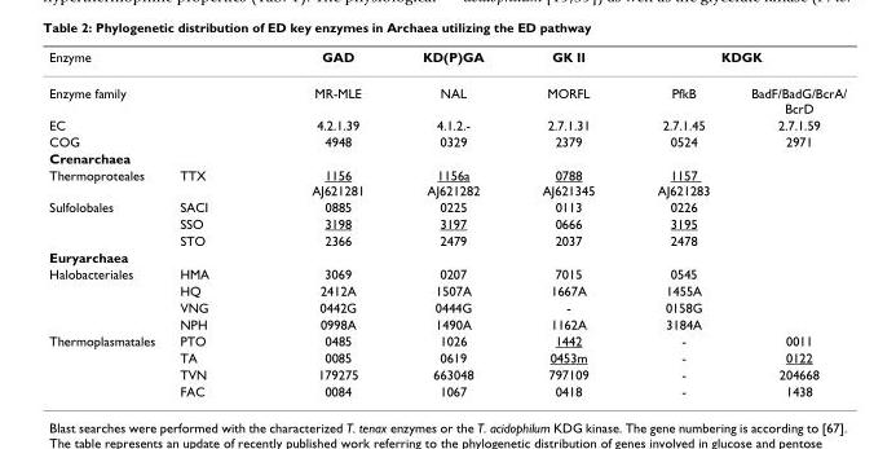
<table><thead><tr><td rowspan="2">Enzyme Enzyme family</td><td rowspan="2"></td><td rowspan="2">GAD MR-MLE</td><td rowspan="2">KD(P)GA NAL</td><td rowspan="2">GK II MORFL</td><td colspan="2">KDGK</td></tr><tr><td>PfkB</td><td>BadF/BadG/BcrA/ BcrD</td></tr></thead><tbody><tr><td>EC</td><td></td><td>4.2.1.39</td><td>4.1.2.-</td><td>2.7.1.31</td><td>2.7.1.45</td><td>2.7.1.59</td></tr><tr><td>COG</td><td></td><td>4948</td><td>0329</td><td>2379</td><td>0524</td><td>2971</td></tr><tr><td colspan="7">Crenarchaea</td></tr><tr><td>Thermoproteales</td><td>TTX</td><td>1156 AJ621281</td><td>1156a AJ621282</td><td>0788 AJ621345</td><td>1157 AJ621283</td><td></td></tr><tr><td rowspan="3">Sulfolobales</td><td>SACI</td><td>0885</td><td>0225</td><td>0113</td><td>0226</td><td></td></tr><tr><td>SSO</td><td>3198</td><td>3197</td><td>0666</td><td>3195</td><td></td></tr><tr><td>STO</td><td>2366</td><td>2479</td><td>2037</td><td>2478</td><td></td></tr><tr><td colspan="7">Euryarchaea</td></tr><tr><td rowspan="4">Halobacteriales</td><td>HMA</td><td>3069</td><td>0207</td><td>7015</td><td>0545</td><td></td></tr><tr><td>HQ</td><td>2412A</td><td>1507A</td><td>1667A</td><td>1455A</td><td></td></tr><tr><td>VNG</td><td>0442G</td><td>0444G</td><td>-</td><td>0158G</td><td></td></tr><tr><td>NPH</td><td>0998A</td><td>1490A</td><td>1162A</td><td>3184A</td><td></td></tr><tr><td rowspan="4">Thermoplasmatales</td><td>PTO</td><td>0485</td><td>1026</td><td>1442</td><td>-</td><td>0011</td></tr><tr><td>TA</td><td>0085</td><td>0619</td><td>0453m</td><td>-</td><td>0122</td></tr><tr><td>TVN</td><td>179275</td><td>663048</td><td>797109</td><td>-</td><td>204668</td></tr><tr><td>FAC</td><td>0084</td><td>1067</td><td>0418</td><td>-</td><td>1438</td></tr></tbody></table>